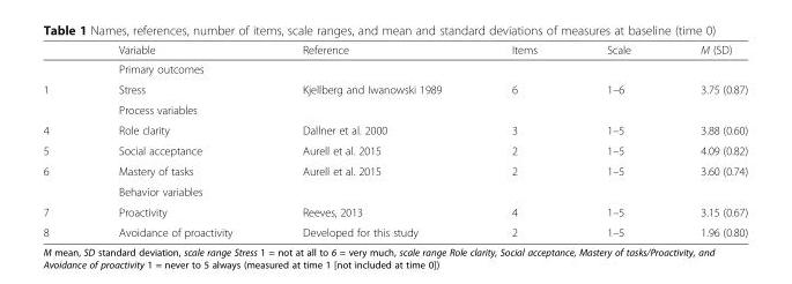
<table><thead><tr><td></td><td>Variable</td><td>Reference</td><td>Items</td><td>Scale</td><td>M (SD)</td></tr></thead><tbody><tr><td></td><td colspan="5">Primary outcomes</td></tr><tr><td rowspan="2">1</td><td>Stress</td><td>Kjellberg and Iwanowski 1989</td><td>6</td><td>1–6</td><td>3.75 (0.87)</td></tr><tr><td colspan="5">Process variables</td></tr><tr><td>4</td><td>Role clarity</td><td>Dallner et al. 2000</td><td>3</td><td>1–5</td><td>3.88 (0.60)</td></tr><tr><td>5</td><td>Social acceptance</td><td>Aurell et al. 2015</td><td>2</td><td>1–5</td><td>4.09 (0.82)</td></tr><tr><td rowspan="2">6</td><td>Mastery of tasks</td><td>Aurell et al. 2015</td><td>2</td><td>1–5</td><td>3.60 (0.74)</td></tr><tr><td colspan="5">Behavior variables</td></tr><tr><td>7</td><td>Proactivity</td><td>Reeves, 2013</td><td>4</td><td>1–5</td><td>3.15 (0.67)</td></tr><tr><td>8</td><td>Avoidance of proactivity</td><td>Developed for this study</td><td>2</td><td>1–5</td><td>1.96 (0.80)</td></tr></tbody></table>